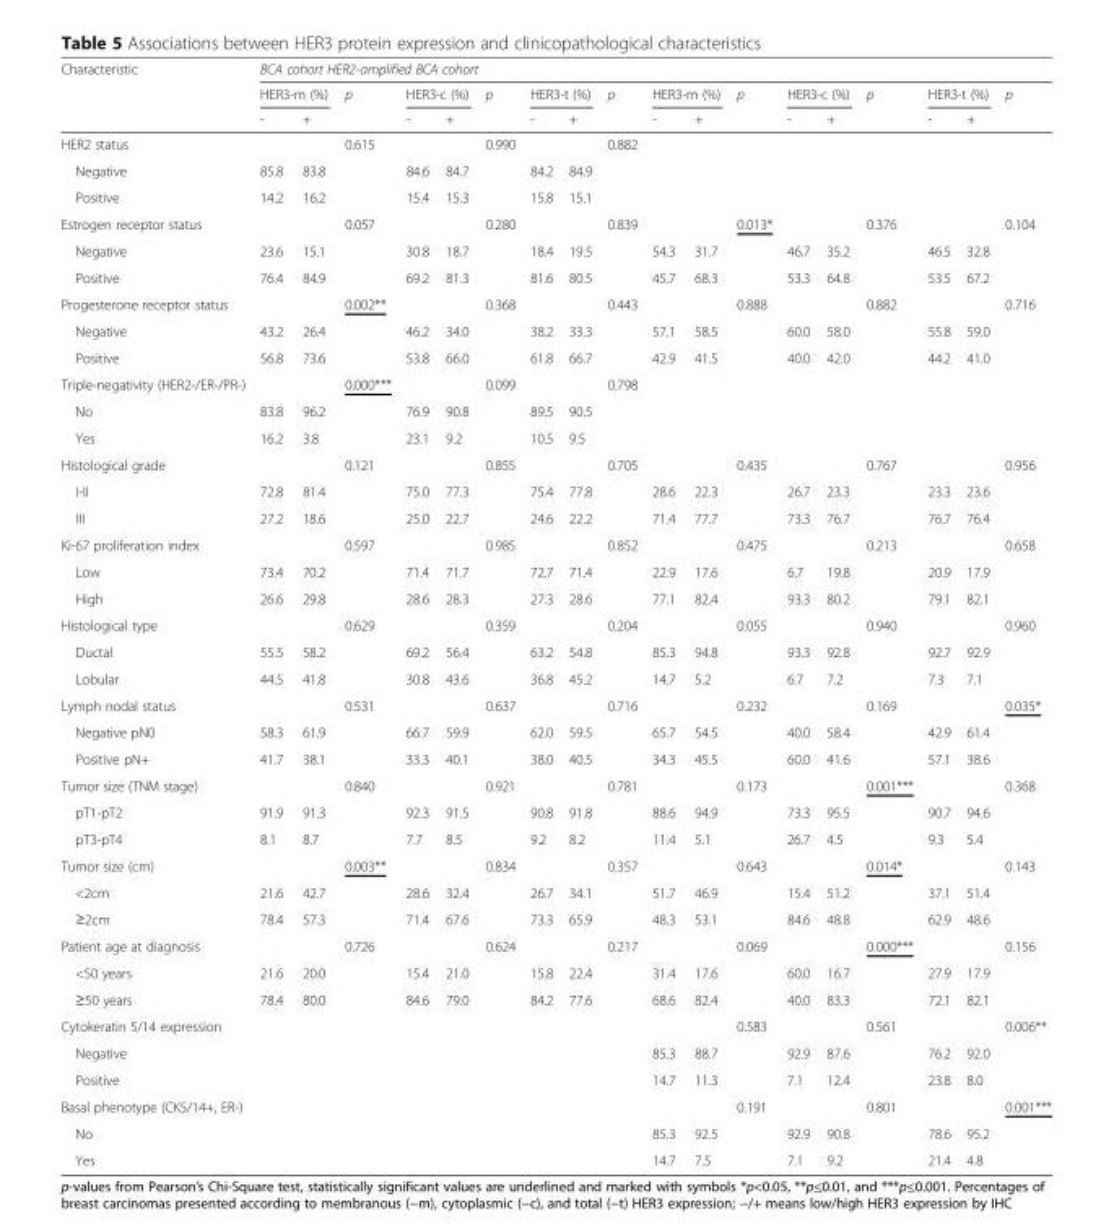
<table><thead><tr><td rowspan="4">Characteristic HER2 status</td><td colspan="18">BCA cohort HER2-amplified BCA cohort</td></tr><tr><td colspan="2">HER3-m (%)</td><td>p</td><td colspan="2">HER3-c (%)</td><td>p</td><td colspan="2">HER3-t (%)</td><td>p</td><td colspan="2">HER3-m (%)</td><td>p</td><td colspan="2">HER3-c (%)</td><td>p</td><td colspan="2">HER3-t (%)</td><td>p</td></tr><tr><td rowspan="2">-</td><td colspan="2">+</td><td rowspan="2">-</td><td colspan="2">+</td><td rowspan="2">-</td><td colspan="2">+</td><td rowspan="2">-</td><td colspan="2">+</td><td rowspan="2">-</td><td colspan="2">+</td><td rowspan="2">-</td><td colspan="2">+</td></tr><tr><td></td><td>0.615</td><td></td><td>0.990</td><td></td><td>0.882</td><td></td><td></td><td></td><td></td><td></td><td></td></tr></thead><tbody><tr><td>Negative</td><td>85.8</td><td>83.8</td><td></td><td>84.6</td><td>84.7</td><td></td><td>84.2</td><td>84.9</td><td></td><td></td><td></td><td></td><td></td><td></td><td></td><td></td><td></td><td></td></tr><tr><td>Positive</td><td>14.2</td><td>16.2</td><td></td><td>15.4</td><td>15.3</td><td></td><td>15.8</td><td>15.1</td><td></td><td></td><td></td><td></td><td></td><td></td><td></td><td></td><td></td><td></td></tr><tr><td>Estrogen receptor status</td><td></td><td></td><td>0.057</td><td></td><td></td><td>0.280</td><td></td><td></td><td>0.839</td><td></td><td></td><td>0.013*</td><td></td><td></td><td>0.376</td><td></td><td></td><td>0.104</td></tr><tr><td>Negative</td><td>23.6</td><td>15.1</td><td></td><td>30.8</td><td>18.7</td><td></td><td>18.4</td><td>19.5</td><td></td><td>54.3</td><td>31.7</td><td></td><td>46.7</td><td>35.2</td><td></td><td>46.5</td><td>32.8</td><td></td></tr><tr><td>Positive</td><td>76.4</td><td>84.9</td><td></td><td>69.2</td><td>81.3</td><td></td><td>81.6</td><td>80.5</td><td></td><td>45.7</td><td>68.3</td><td></td><td>53.3</td><td>64.8</td><td></td><td>53.5</td><td>67.2</td><td></td></tr><tr><td>Progesterone receptor status</td><td></td><td></td><td>0.002**</td><td></td><td></td><td>0.368</td><td></td><td></td><td>0.443</td><td></td><td></td><td>0.888</td><td></td><td></td><td>0.882</td><td></td><td></td><td>0.716</td></tr><tr><td>Negative</td><td>43.2</td><td>26.4</td><td></td><td>46.2</td><td>34.0</td><td></td><td>38.2</td><td>33.3</td><td></td><td>57.1</td><td>58.5</td><td></td><td>60.0</td><td>58.0</td><td></td><td>55.8</td><td>59.0</td><td></td></tr><tr><td>Positive</td><td>56.8</td><td>73.6</td><td></td><td>53.8</td><td>66.0</td><td></td><td>61.8</td><td>66.7</td><td></td><td>42.9</td><td>41.5</td><td></td><td>40.0</td><td>42.0</td><td></td><td>44.2</td><td>41.0</td><td></td></tr><tr><td>Triple-negativity (HER2-/ER-/PR-)</td><td></td><td></td><td>0.000***</td><td></td><td></td><td>0.099</td><td></td><td></td><td>0.798</td><td></td><td></td><td></td><td></td><td></td><td></td><td></td><td></td><td></td></tr><tr><td>No</td><td>83.8</td><td>96.2</td><td></td><td>76.9</td><td>90.8</td><td></td><td>89.5</td><td>90.5</td><td></td><td></td><td></td><td></td><td></td><td></td><td></td><td></td><td></td><td></td></tr><tr><td>Yes</td><td>16.2</td><td>3.8</td><td></td><td>23.1</td><td>9.2</td><td></td><td>10.5</td><td>9.5</td><td></td><td></td><td></td><td></td><td></td><td></td><td></td><td></td><td></td><td></td></tr><tr><td>Histological grade</td><td></td><td></td><td>0.121</td><td></td><td></td><td>0.855</td><td></td><td></td><td>0.705</td><td></td><td></td><td>0.435</td><td></td><td></td><td>0.767</td><td></td><td></td><td>0.956</td></tr><tr><td>I-II</td><td>72.8</td><td>81.4</td><td></td><td>75.0</td><td>77.3</td><td></td><td>75.4</td><td>77.8</td><td></td><td>28.6</td><td>22.3</td><td></td><td>26.7</td><td>23.3</td><td></td><td>23.3</td><td>23.6</td><td></td></tr><tr><td>III</td><td>27.2</td><td>18.6</td><td></td><td>25.0</td><td>22.7</td><td></td><td>24.6</td><td>22.2</td><td></td><td>71.4</td><td>77.7</td><td></td><td>73.3</td><td>76.7</td><td></td><td>76.7</td><td>76.4</td><td></td></tr><tr><td>Ki-67 proliferation index</td><td></td><td></td><td>0.597</td><td></td><td></td><td>0.985</td><td></td><td></td><td>0.852</td><td></td><td></td><td>0.475</td><td></td><td></td><td>0.213</td><td></td><td></td><td>0.658</td></tr><tr><td>Low</td><td>73.4</td><td>70.2</td><td></td><td>71.4</td><td>71.7</td><td></td><td>72.7</td><td>71.4</td><td></td><td>22.9</td><td>17.6</td><td></td><td>6.7</td><td>19.8</td><td></td><td>20.9</td><td>17.9</td><td></td></tr><tr><td>High</td><td>26.6</td><td>29.8</td><td></td><td>28.6</td><td>28.3</td><td></td><td>27.3</td><td>28.6</td><td></td><td>77.1</td><td>82.4</td><td></td><td>93.3</td><td>80.2</td><td></td><td>79.1</td><td>82.1</td><td></td></tr><tr><td>Histological type</td><td></td><td></td><td>0.629</td><td></td><td></td><td>0.359</td><td></td><td></td><td>0.204</td><td></td><td></td><td>0.055</td><td></td><td></td><td>0.940</td><td></td><td></td><td>0.960</td></tr><tr><td>Ductal</td><td>55.5</td><td>58.2</td><td></td><td>69.2</td><td>56.4</td><td></td><td>63.2</td><td>54.8</td><td></td><td>85.3</td><td>94.8</td><td></td><td>93.3</td><td>92.8</td><td></td><td>92.7</td><td>92.9</td><td></td></tr><tr><td>Lobular</td><td>44.5</td><td>41.8</td><td></td><td>30.8</td><td>43.6</td><td></td><td>36.8</td><td>45.2</td><td></td><td>14.7</td><td>5.2</td><td></td><td>6.7</td><td>7.2</td><td></td><td>7.3</td><td>7.1</td><td></td></tr><tr><td>Lymph nodal status</td><td></td><td></td><td>0.531</td><td></td><td></td><td>0.637</td><td></td><td></td><td>0.716</td><td></td><td></td><td>0.232</td><td></td><td></td><td>0.169</td><td></td><td></td><td>0.035*</td></tr><tr><td>Negative pN0</td><td>58.3</td><td>61.9</td><td></td><td>66.7</td><td>59.9</td><td></td><td>62.0</td><td>59.5</td><td></td><td>65.7</td><td>54.5</td><td></td><td>40.0</td><td>58.4</td><td></td><td>42.9</td><td>61.4</td><td></td></tr><tr><td>Positive pN+</td><td>41.7</td><td>38.1</td><td></td><td>33.3</td><td>40.1</td><td></td><td>38.0</td><td>40.5</td><td></td><td>34.3</td><td>45.5</td><td></td><td>60.0</td><td>41.6</td><td></td><td>57.1</td><td>38.6</td><td></td></tr><tr><td>Tumor size (TNM stage)</td><td></td><td></td><td>0.840</td><td></td><td></td><td>0.921</td><td></td><td></td><td>0.781</td><td></td><td></td><td>0.173</td><td></td><td></td><td>0.001***</td><td></td><td></td><td>0.368</td></tr><tr><td>pT1-pT2</td><td>91.9</td><td>91.3</td><td></td><td>92.3</td><td>91.5</td><td></td><td>90.8</td><td>91.8</td><td></td><td>88.6</td><td>94.9</td><td></td><td>73.3</td><td>95.5</td><td></td><td>90.7</td><td>94.6</td><td></td></tr><tr><td>pT3-pT4</td><td>8.1</td><td>8.7</td><td></td><td>7.7</td><td>8.5</td><td></td><td>9.2</td><td>8.2</td><td></td><td>11.4</td><td>5.1</td><td></td><td>26.7</td><td>4.5</td><td></td><td>9.3</td><td>5.4</td><td></td></tr><tr><td>Tumor size (cm)</td><td></td><td></td><td>0.003**</td><td></td><td></td><td>0.834</td><td></td><td></td><td>0.357</td><td></td><td></td><td>0.643</td><td></td><td></td><td>0.014*</td><td></td><td></td><td>0.143</td></tr><tr><td>&lt;2cm</td><td>21.6</td><td>42.7</td><td></td><td>28.6</td><td>32.4</td><td></td><td>26.7</td><td>34.1</td><td></td><td>51.7</td><td>46.9</td><td></td><td>15.4</td><td>51.2</td><td></td><td>37.1</td><td>51.4</td><td></td></tr><tr><td>≥2cm</td><td>78.4</td><td>57.3</td><td></td><td>71.4</td><td>67.6</td><td></td><td>73.3</td><td>65.9</td><td></td><td>48.3</td><td>53.1</td><td></td><td>84.6</td><td>48.8</td><td></td><td>62.9</td><td>48.6</td><td></td></tr><tr><td>Patient age at diagnosis</td><td></td><td></td><td>0.726</td><td></td><td></td><td>0.624</td><td></td><td></td><td>0.217</td><td></td><td></td><td>0.069</td><td></td><td></td><td>0.000***</td><td></td><td></td><td>0.156</td></tr><tr><td>&lt;50 years</td><td>21.6</td><td>20.0</td><td></td><td>15.4</td><td>21.0</td><td></td><td>15.8</td><td>22.4</td><td></td><td>31.4</td><td>17.6</td><td></td><td>60.0</td><td>16.7</td><td></td><td>27.9</td><td>17.9</td><td></td></tr><tr><td>≥50 years</td><td>78.4</td><td>80.0</td><td></td><td>84.6</td><td>79.0</td><td></td><td>84.2</td><td>77.6</td><td></td><td>68.6</td><td>82.4</td><td></td><td>40.0</td><td>83.3</td><td></td><td>72.1</td><td>82.1</td><td></td></tr><tr><td>Cytokeratin 5/14 expression</td><td></td><td></td><td></td><td></td><td></td><td></td><td></td><td></td><td></td><td></td><td></td><td>0.583</td><td></td><td></td><td>0.561</td><td></td><td></td><td>0.006**</td></tr><tr><td>Negative</td><td></td><td></td><td></td><td></td><td></td><td></td><td></td><td></td><td></td><td>85.3</td><td>88.7</td><td></td><td>92.9</td><td>87.6</td><td></td><td>76.2</td><td>92.0</td><td></td></tr><tr><td>Positive</td><td></td><td></td><td></td><td></td><td></td><td></td><td></td><td></td><td></td><td>14.7</td><td>11.3</td><td></td><td>7.1</td><td>12.4</td><td></td><td>23.8</td><td>8.0</td><td></td></tr><tr><td>Basal phenotype (CK5/14+, ER-)</td><td></td><td></td><td></td><td></td><td></td><td></td><td></td><td></td><td></td><td></td><td></td><td>0.191</td><td></td><td></td><td>0.801</td><td></td><td></td><td>0.001***</td></tr><tr><td>No</td><td></td><td></td><td></td><td></td><td></td><td></td><td></td><td></td><td></td><td>85.3</td><td>92.5</td><td></td><td>92.9</td><td>90.8</td><td></td><td>78.6</td><td>95.2</td><td></td></tr><tr><td>Yes</td><td></td><td></td><td></td><td></td><td></td><td></td><td></td><td></td><td></td><td>14.7</td><td>7.5</td><td></td><td>7.1</td><td>9.2</td><td></td><td>21.4</td><td>4.8</td><td></td></tr></tbody></table>